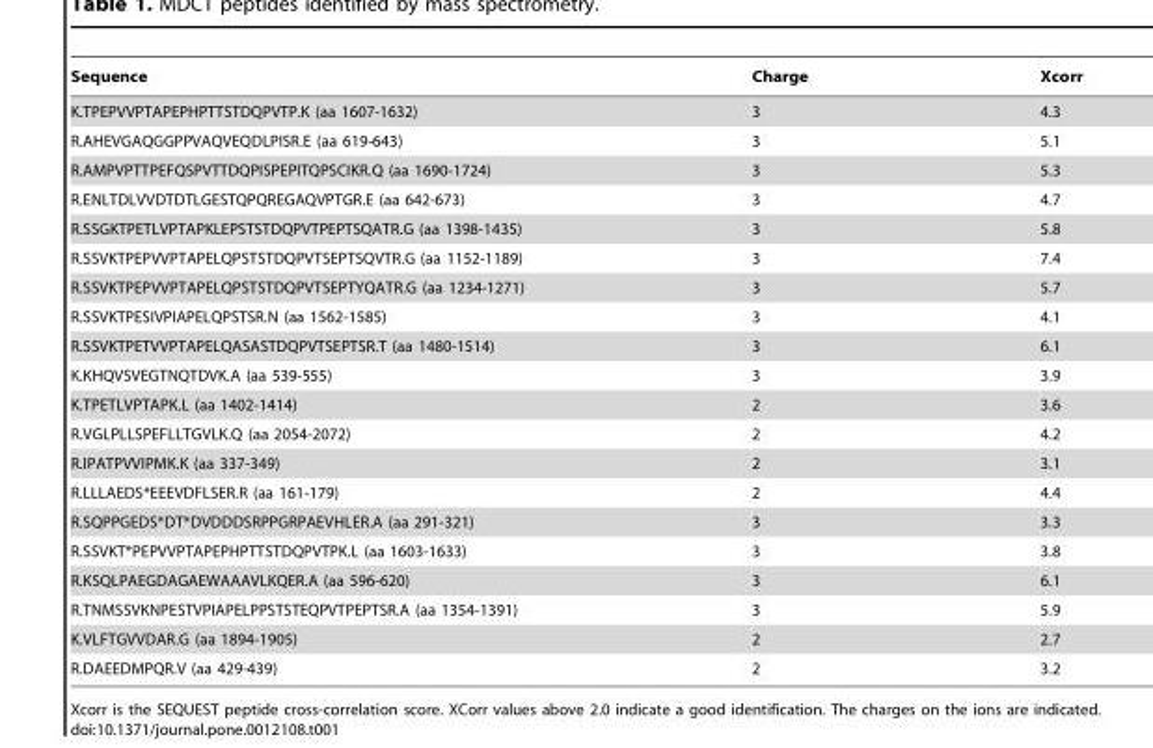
<table><thead><tr><td>Sequence</td><td>Charge</td><td>Xcorr</td></tr></thead><tbody><tr><td>K.TPEPVVPTAPEPHPTTSTDQPVTP.K (aa 1607-1632)</td><td>3</td><td>4.3</td></tr><tr><td>R.AHEVGAQGGPPVAQVEQDLPISR.E (aa 619-643)</td><td>3</td><td>5.1</td></tr><tr><td>R.AMPVPTTPEFQSPVTTDQPISPEPITQPSCIKR.Q (aa 1690-1724)</td><td>3</td><td>5.3</td></tr><tr><td>R.ENLTDLVVDTDTLGESTQPQREGAQVPTGR.E (aa 642-673)</td><td>3</td><td>4.7</td></tr><tr><td>R.SSGKTPETLVPTAPKLEPSTSTDQPVTPEPTSQATR.G (aa 1398-1435)</td><td>3</td><td>5.8</td></tr><tr><td>R.SSVKTPEPVVPTAPELQPSTSTDQPVTSEPTSQVTR.G (aa 1152-1189)</td><td>3</td><td>7.4</td></tr><tr><td>R.SSVKTPEPVVPTAPELQPSTSTDQPVTSEPTYQATR.G (aa 1234-1271)</td><td>3</td><td>5.7</td></tr><tr><td>R.SSVKTPESIVPIAPELQPSTSR.N (aa 1562-1585)</td><td>3</td><td>4.1</td></tr><tr><td>R.SSVKTPETVVPTAPELQASASTDQPVTSEPTSR.T (aa 1480-1514)</td><td>3</td><td>6.1</td></tr><tr><td>K.KHQVSVEGTNQTDVK.A (aa 539-555)</td><td>3</td><td>3.9</td></tr><tr><td>K.TPETLVPTAPK.L (aa 1402-1414)</td><td>2</td><td>3.6</td></tr><tr><td>R.VGLPLLSPEFLLTGVLK.Q (aa 2054-2072)</td><td>2</td><td>4.2</td></tr><tr><td>R.IPATPVVIPMK.K (aa 337-349)</td><td>2</td><td>3.1</td></tr><tr><td>R.LLLAEDS*EEEVDFLSER.R (aa 161-179)</td><td>2</td><td>4.4</td></tr><tr><td>R.SQPPGEDS*DT*DVDDDSRPPGRPAEVHLER.A (aa 291-321)</td><td>3</td><td>3.3</td></tr><tr><td>R.SSVKT*PEPVVPTAPEPHPTTSTDQPVTPK.L (aa 1603-1633)</td><td>3</td><td>3.8</td></tr><tr><td>R.KSQLPAEGDAGAEWAAAVLKQER.A (aa 596-620)</td><td>3</td><td>6.1</td></tr><tr><td>R.TNMSSVKNPESTVPIAPELPPSTSTEQPVTPEPTSR.A (aa 1354-1391)</td><td>3</td><td>5.9</td></tr><tr><td>K.VLFTGVVDAR.G (aa 1894-1905)</td><td>2</td><td>2.7</td></tr><tr><td>R.DAEEDMPQR.V (aa 429-439)</td><td>2</td><td>3.2</td></tr></tbody></table>